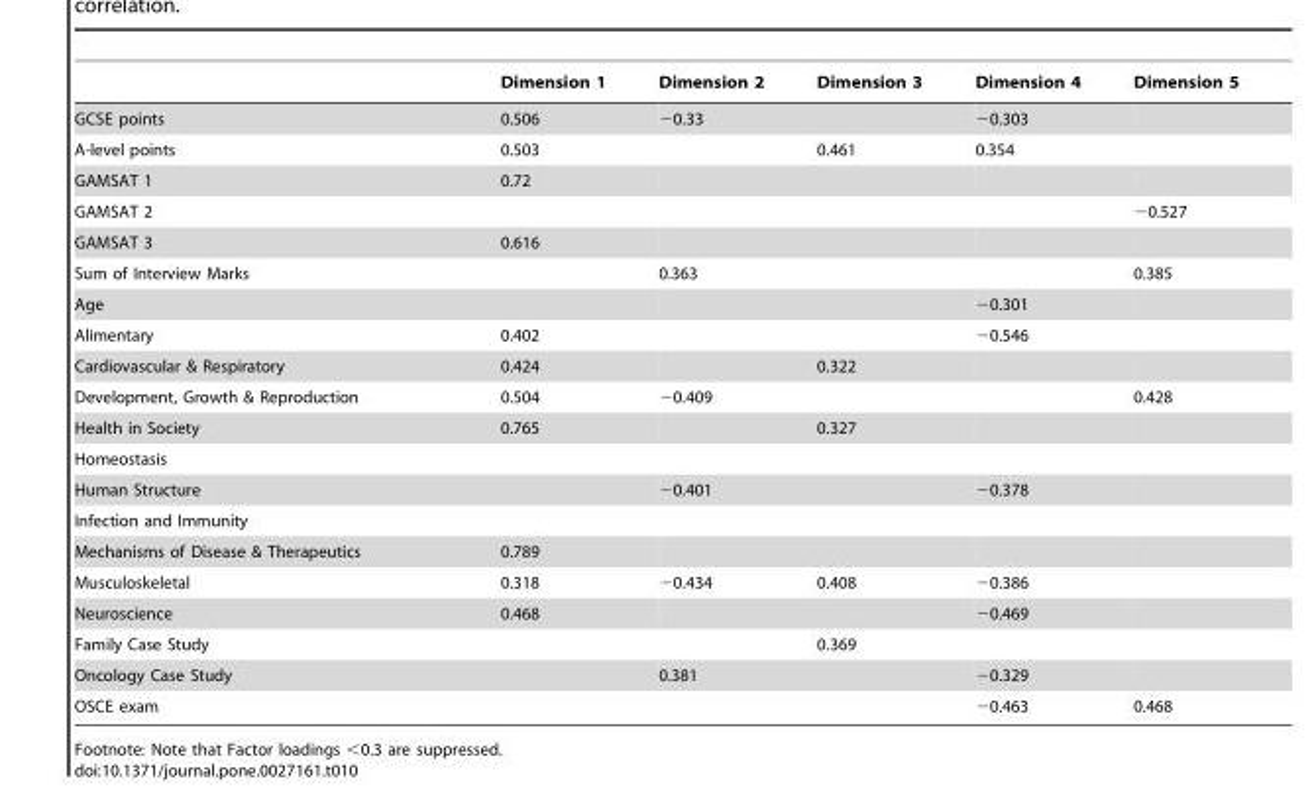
<table><thead><tr><td></td><td>Dimension 1</td><td>Dimension 2</td><td>Dimension 3</td><td>Dimension 4</td><td>Dimension 5</td></tr></thead><tbody><tr><td>GCSE points</td><td>0.506</td><td>−0.33</td><td></td><td>−0.303</td><td></td></tr><tr><td>A-level points</td><td>0.503</td><td></td><td>0.461</td><td>0.354</td><td></td></tr><tr><td>GAMSAT 1</td><td>0.72</td><td></td><td></td><td></td><td></td></tr><tr><td>GAMSAT 2</td><td></td><td></td><td></td><td></td><td>−0.527</td></tr><tr><td>GAMSAT 3</td><td>0.616</td><td></td><td></td><td></td><td></td></tr><tr><td>Sum of Interview Marks</td><td></td><td>0.363</td><td></td><td></td><td>0.385</td></tr><tr><td>Age</td><td></td><td></td><td></td><td>−0.301</td><td></td></tr><tr><td>Alimentary</td><td>0.402</td><td></td><td></td><td>−0.546</td><td></td></tr><tr><td>Cardiovascular &amp; Respiratory</td><td>0.424</td><td></td><td>0.322</td><td></td><td></td></tr><tr><td>Development, Growth &amp; Reproduction</td><td>0.504</td><td>−0.409</td><td></td><td></td><td>0.428</td></tr><tr><td>Health in Society</td><td>0.765</td><td></td><td>0.327</td><td></td><td></td></tr><tr><td colspan="6">Homeostasis</td></tr><tr><td>Human Structure</td><td></td><td>−0.401</td><td></td><td>−0.378</td><td></td></tr><tr><td colspan="6">Infection and Immunity</td></tr><tr><td>Mechanisms of Disease &amp; Therapeutics</td><td>0.789</td><td></td><td></td><td></td><td></td></tr><tr><td>Musculoskeletal</td><td>0.318</td><td>−0.434</td><td>0.408</td><td>−0.386</td><td></td></tr><tr><td>Neuroscience</td><td>0.468</td><td></td><td></td><td>−0.469</td><td></td></tr><tr><td>Family Case Study</td><td></td><td></td><td>0.369</td><td></td><td></td></tr><tr><td>Oncology Case Study</td><td></td><td>0.381</td><td></td><td>−0.329</td><td></td></tr><tr><td>OSCE exam</td><td></td><td></td><td></td><td>−0.463</td><td>0.468</td></tr></tbody></table>